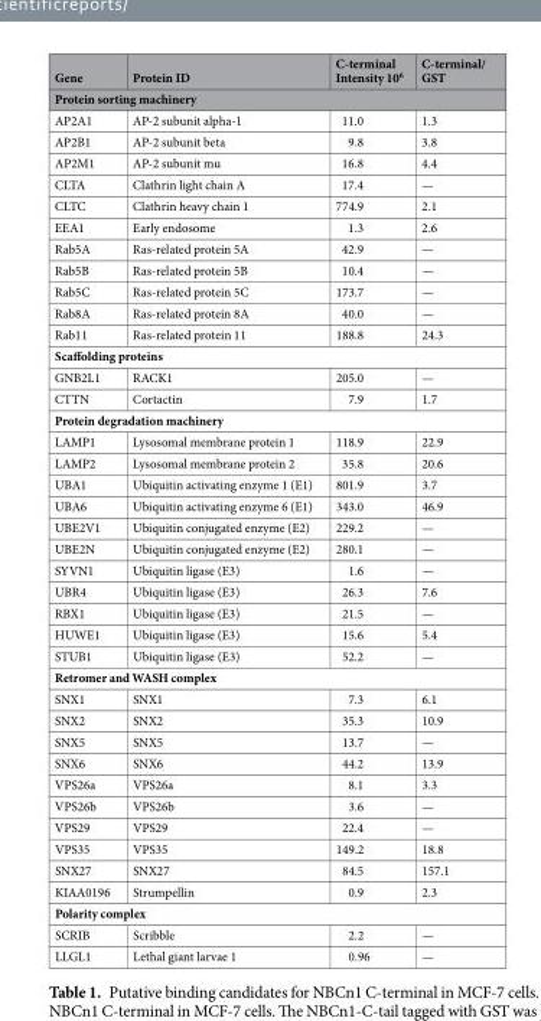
<table><thead><tr><td>Gene</td><td>Protein ID</td><td>C-terminal Intensity 10<sup>6</sup></td><td>C-terminal/ GST</td></tr><tr><td colspan="4">Protein sorting machinery</td></tr></thead><tbody><tr><td>AP2A1</td><td>AP-2 subunit alpha-1</td><td>11.0</td><td>1.3</td></tr><tr><td>AP2B1</td><td>AP-2 subunit beta</td><td>9.8</td><td>3.8</td></tr><tr><td>AP2M1</td><td>AP-2 subunit mu</td><td>16.8</td><td>4.4</td></tr><tr><td>CLTA</td><td>Clathrin light chain A</td><td>17.4</td><td>—</td></tr><tr><td>CLTC</td><td>Clathrin heavy chain 1</td><td>774.9</td><td>2.1</td></tr><tr><td>EEA1</td><td>Early endosome</td><td>1.3</td><td>2.6</td></tr><tr><td>Rab5A</td><td>Ras-related protein 5A</td><td>42.9</td><td>—</td></tr><tr><td>Rab5B</td><td>Ras-related protein 5B</td><td>10.4</td><td>—</td></tr><tr><td>Rab5C</td><td>Ras-related protein 5C</td><td>173.7</td><td>—</td></tr><tr><td>Rab8A</td><td>Ras-related protein 8A</td><td>40.0</td><td>—</td></tr><tr><td>Rab11</td><td>Ras-related protein 11</td><td>188.8</td><td>24.3</td></tr><tr><td colspan="4">Scaffolding proteins</td></tr><tr><td>GNB2L1</td><td>RACK1</td><td>205.0</td><td>—</td></tr><tr><td>CTTN</td><td>Cortactin</td><td>7.9</td><td>1.7</td></tr><tr><td colspan="4">Protein degradation machinery</td></tr><tr><td>LAMP1</td><td>Lysosomal membrane protein 1</td><td>118.9</td><td>22.9</td></tr><tr><td>LAMP2</td><td>Lysosomal membrane protein 2</td><td>35.8</td><td>20.6</td></tr><tr><td>UBA1</td><td>Ubiquitin activating enzyme 1 (E1)</td><td>801.9</td><td>3.7</td></tr><tr><td>UBA6</td><td>Ubiquitin activating enzyme 6 (E1)</td><td>343.0</td><td>46.9</td></tr><tr><td>UBE2V1</td><td>Ubiquitin conjugated enzyme (E2)</td><td>229.2</td><td>—</td></tr><tr><td>UBE2N</td><td>Ubiquitin conjugated enzyme (E2)</td><td>280.1</td><td>—</td></tr><tr><td>SYVN1</td><td>Ubiquitin ligase (E3)</td><td>1.6</td><td>—</td></tr><tr><td>UBR4</td><td>Ubiquitin ligase (E3)</td><td>26.3</td><td>7.6</td></tr><tr><td>RBX1</td><td>Ubiquitin ligase (E3)</td><td>21.5</td><td>—</td></tr><tr><td>HUWE1</td><td>Ubiquitin ligase (E3)</td><td>15.6</td><td>5.4</td></tr><tr><td>STUB1</td><td>Ubiquitin ligase (E3)</td><td>52.2</td><td>—</td></tr><tr><td colspan="4">Retromer and WASH complex</td></tr><tr><td>SNX1</td><td>SNX1</td><td>7.3</td><td>6.1</td></tr><tr><td>SNX2</td><td>SNX2</td><td>35.3</td><td>10.9</td></tr><tr><td>SNX5</td><td>SNX5</td><td>13.7</td><td>—</td></tr><tr><td>SNX6</td><td>SNX6</td><td>44.2</td><td>13.9</td></tr><tr><td>VPS26a</td><td>VPS26a</td><td>8.1</td><td>3.3</td></tr><tr><td>VPS26b</td><td>VPS26b</td><td>3.6</td><td>—</td></tr><tr><td>VPS29</td><td>VPS29</td><td>22.4</td><td>—</td></tr><tr><td>VPS35</td><td>VPS35</td><td>149.2</td><td>18.8</td></tr><tr><td>SNX27</td><td>SNX27</td><td>84.5</td><td>157.1</td></tr><tr><td>KIAA0196</td><td>Strumpellin</td><td>0.9</td><td>2.3</td></tr><tr><td colspan="4">Polarity complex</td></tr><tr><td>SCRIB</td><td>Scribble</td><td>2.2</td><td>—</td></tr><tr><td>LLGL1</td><td>Lethal giant larvae 1</td><td>0.96</td><td>—</td></tr></tbody></table>